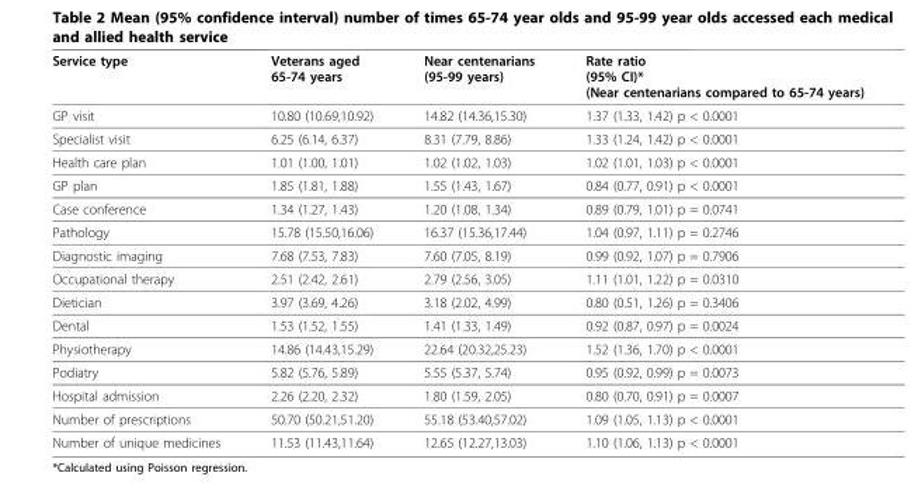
<table><thead><tr><td>Service type</td><td>Veterans aged 65-74 years</td><td>Near centenarians (95-99 years)</td><td>Rate ratio (95% CI)* (Near centenarians compared to 65-74 years)</td></tr></thead><tbody><tr><td>GP visit</td><td>10.80 (10.69,10.92)</td><td>14.82 (14.36,15.30)</td><td>1.37 (1.33, 1.42) p &lt; 0.0001</td></tr><tr><td>Specialist visit</td><td>6.25 (6.14, 6.37)</td><td>8.31 (7.79, 8.86)</td><td>1.33 (1.24, 1.42) p &lt; 0.0001</td></tr><tr><td>Health care plan</td><td>1.01 (1.00, 1.01)</td><td>1.02 (1.02, 1.03)</td><td>1.02 (1.01, 1.03) p &lt; 0.0001</td></tr><tr><td>GP plan</td><td>1.85 (1.81, 1.88)</td><td>1.55 (1.43, 1.67)</td><td>0.84 (0.77, 0.91) p &lt; 0.0001</td></tr><tr><td>Case conference</td><td>1.34 (1.27, 1.43)</td><td>1.20 (1.08, 1.34)</td><td>0.89 (0.79, 1.01) p = 0.0741</td></tr><tr><td>Pathology</td><td>15.78 (15.50,16.06)</td><td>16.37 (15.36,17.44)</td><td>1.04 (0.97, 1.11) p = 0.2746</td></tr><tr><td>Diagnostic imaging</td><td>7.68 (7.53, 7.83)</td><td>7.60 (7.05, 8.19)</td><td>0.99 (0.92, 1.07) p = 0.7906</td></tr><tr><td>Occupational therapy</td><td>2.51 (2.42, 2.61)</td><td>2.79 (2.56, 3.05)</td><td>1.11 (1.01, 1.22) p = 0.0310</td></tr><tr><td>Dietician</td><td>3.97 (3.69, 4.26)</td><td>3.18 (2.02, 4.99)</td><td>0.80 (0.51, 1.26) p = 0.3406</td></tr><tr><td>Dental</td><td>1.53 (1.52, 1.55)</td><td>1.41 (1.33, 1.49)</td><td>0.92 (0.87, 0.97) p = 0.0024</td></tr><tr><td>Physiotherapy</td><td>14.86 (14.43,15.29)</td><td>22.64 (20.32,25.23)</td><td>1.52 (1.36, 1.70) p &lt; 0.0001</td></tr><tr><td>Podiatry</td><td>5.82 (5.76, 5.89)</td><td>5.55 (5.37, 5.74)</td><td>0.95 (0.92, 0.99) p = 0.0073</td></tr><tr><td>Hospital admission</td><td>2.26 (2.20, 2.32)</td><td>1.80 (1.59, 2.05)</td><td>0.80 (0.70, 0.91) p = 0.0007</td></tr><tr><td>Number of prescriptions</td><td>50.70 (50.21,51.20)</td><td>55.18 (53.40,57.02)</td><td>1.09 (1.05, 1.13) p &lt; 0.0001</td></tr><tr><td>Number of unique medicines</td><td>11.53 (11.43,11.64)</td><td>12.65 (12.27,13.03)</td><td>1.10 (1.06, 1.13) p &lt; 0.0001</td></tr></tbody></table>